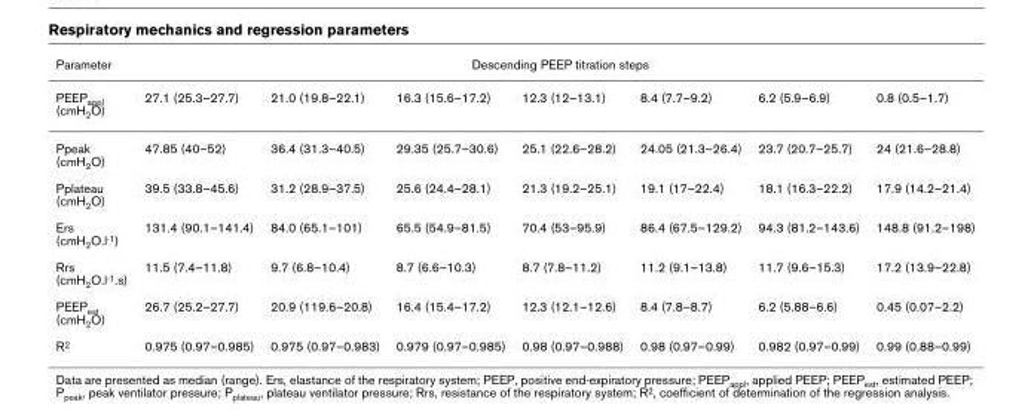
<table><thead><tr><td rowspan="2">Parameter PEEP<sub>appl</sub> (cmH<sub>2</sub>O)</td><td colspan="7">Descending PEEP titration steps</td></tr><tr><td>27.1 (25.3–27.7)</td><td>21.0 (19.8–22.1)</td><td>16.3 (15.6–17.2)</td><td>12.3 (12–13.1)</td><td>8.4 (7.7–9.2)</td><td>6.2 (5.9–6.9)</td><td>0.8 (0.5–1.7)</td></tr></thead><tbody><tr><td>Ppeak (cmH<sub>2</sub>O)</td><td>47.85 (40–52)</td><td>36.4 (31.3–40.5)</td><td>29.35 (25.7–30.6)</td><td>25.1 (22.6–28.2)</td><td>24.05 (21.3–26.4)</td><td>23.7 (20.7–25.7)</td><td>24 (21.6–28.8)</td></tr><tr><td>Pplateau (cmH<sub>2</sub>O)</td><td>39.5 (33.8–45.6)</td><td>31.2 (28.9–37.5)</td><td>25.6 (24.4–28.1)</td><td>21.3 (19.2–25.1)</td><td>19.1 (17–22.4)</td><td>18.1 (16.3–22.2)</td><td>17.9 (14.2–21.4)</td></tr><tr><td>Ers (cmH<sub>2</sub>O.l<sup>-1</sup>)</td><td>131.4 (90.1–141.4)</td><td>84.0 (65.1–101)</td><td>65.5 (54.9–81.5)</td><td>70.4 (53–95.9)</td><td>86.4 (67.5–129.2)</td><td>94.3 (81.2–143.6)</td><td>148.8 (91.2–198)</td></tr><tr><td>Rrs (cmH<sub>2</sub>O.l<sup>-1</sup>.s)</td><td>11.5 (7.4–11.8)</td><td>9.7 (6.8–10.4)</td><td>8.7 (6.6–10.3)</td><td>8.7 (7.8–11.2)</td><td>11.2 (9.1–13.8)</td><td>11.7 (9.6–15.3)</td><td>17.2 (13.9–22.8)</td></tr><tr><td>PEEP<sub>est</sub> (cmH<sub>2</sub>O)</td><td>26.7 (25.2–27.7)</td><td>20.9 (119.6–20.8)</td><td>16.4 (15.4–17.2)</td><td>12.3 (12.1–12.6)</td><td>8.4 (7.8–8.7)</td><td>6.2 (5.88–6.6)</td><td>0.45 (0.07–2.2)</td></tr><tr><td>R<sup>2</sup></td><td>0.975 (0.97–0.985)</td><td>0.975 (0.97–0.983)</td><td>0.979 (0.97–0.985)</td><td>0.98 (0.97–0.988)</td><td>0.98 (0.97–0.99)</td><td>0.982 (0.97–0.99)</td><td>0.99 (0.88–0.99)</td></tr></tbody></table>